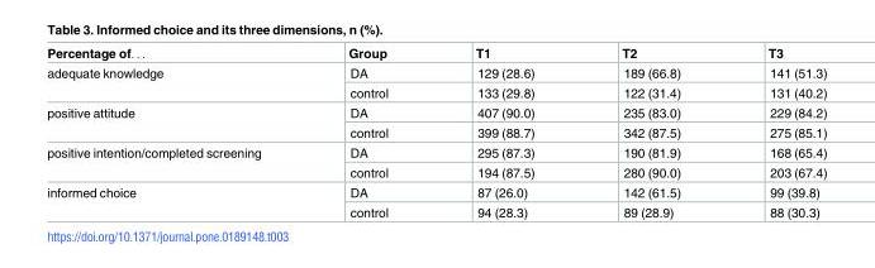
<table><thead><tr><td>Percentage of. . .</td><td>Group</td><td>T1</td><td>T2</td><td>T3</td></tr></thead><tbody><tr><td rowspan="2">adequate knowledge</td><td>DA</td><td>129 (28.6)</td><td>189 (66.8)</td><td>141 (51.3)</td></tr><tr><td>control</td><td>133 (29.8)</td><td>122 (31.4)</td><td>131 (40.2)</td></tr><tr><td rowspan="2">positive attitude</td><td>DA</td><td>407 (90.0)</td><td>235 (83.0)</td><td>229 (84.2)</td></tr><tr><td>control</td><td>399 (88.7)</td><td>342 (87.5)</td><td>275 (85.1)</td></tr><tr><td rowspan="2">positive intention/completed screening</td><td>DA</td><td>295 (87.3)</td><td>190 (81.9)</td><td>168 (65.4)</td></tr><tr><td>control</td><td>194 (87.5)</td><td>280 (90.0)</td><td>203 (67.4)</td></tr><tr><td rowspan="2">informed choice</td><td>DA</td><td>87 (26.0)</td><td>142 (61.5)</td><td>99 (39.8)</td></tr><tr><td>control</td><td>94 (28.3)</td><td>89 (28.9)</td><td>88 (30.3)</td></tr></tbody></table>